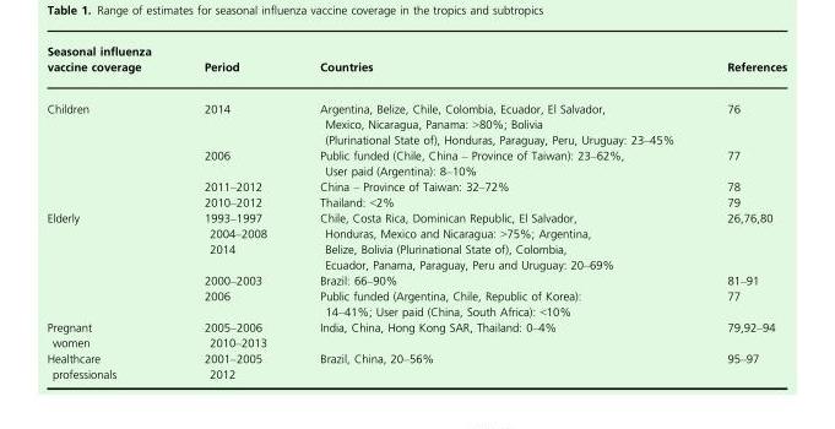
<table><thead><tr><td>Seasonal influenza vaccine coverage</td><td>Period</td><td>Countries</td><td>References</td></tr></thead><tbody><tr><td rowspan="4">Children</td><td>2014</td><td>Argentina, Belize, Chile, Colombia, Ecuador, El Salvador, Mexico, Nicaragua, Panama: &gt;80%; Bolivia (Plurinational State of), Honduras, Paraguay, Peru, Uruguay: 23–45%</td><td>76</td></tr><tr><td>2006</td><td>Public funded (Chile, China – Province of Taiwan): 23–62%, User paid (Argentina): 8–10%</td><td>77</td></tr><tr><td>2011–2012</td><td>China – Province of Taiwan: 32–72%</td><td>78</td></tr><tr><td>2010–2012</td><td>Thailand: &lt;2%</td><td>79</td></tr><tr><td rowspan="3">Elderly</td><td>1993–1997 2004–2008 2014</td><td>Chile, Costa Rica, Dominican Republic, El Salvador, Honduras, Mexico and Nicaragua: &gt;75%; Argentina, Belize, Bolivia (Plurinational State of), Colombia, Ecuador, Panama, Paraguay, Peru and Uruguay: 20–69%</td><td>26,76,80</td></tr><tr><td>2000–2003</td><td>Brazil: 66–90%</td><td>81–91</td></tr><tr><td>2006</td><td>Public funded (Argentina, Chile, Republic of Korea): 14–41%; User paid (China, South Africa): &lt;10%</td><td>77</td></tr><tr><td>Pregnant women</td><td>2005–2006 2010–2013</td><td>India, China, Hong Kong SAR, Thailand: 0–4%</td><td>79,92–94</td></tr><tr><td>Healthcare professionals</td><td>2001–2005 2012</td><td>Brazil, China, 20–56%</td><td>95–97</td></tr></tbody></table>